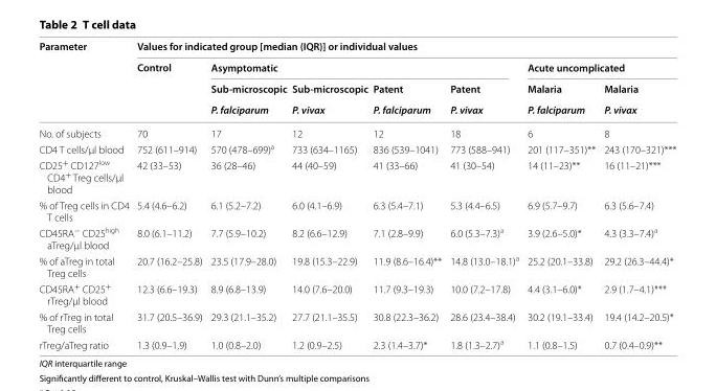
<table><thead><tr><td rowspan="4">Parameter</td><td colspan="7">Values for indicated group [median (IQR)] or individual values</td></tr><tr><td rowspan="3">Control</td><td colspan="4">Asymptomatic</td><td colspan="2">Acute uncomplicated</td></tr><tr><td rowspan="2">Sub‑microscopic P. falciparum</td><td rowspan="2">Sub‑microscopic P. vivax</td><td rowspan="2">Patent P. falciparum</td><td rowspan="2">Patent P. vivax</td><td rowspan="2">Malaria P. falciparum</td><td rowspan="2">Malaria P. vivax</td></tr><tr></tr></thead><tbody><tr><td>No. of subjects</td><td>70</td><td>17</td><td>12</td><td>12</td><td>18</td><td>6</td><td>8</td></tr><tr><td>CD4 T cells/µl blood</td><td>752 (611–914)</td><td>570 (478–699)<sup>a</sup></td><td>733 (634–1165)</td><td>836 (539–1041)</td><td>773 (588–941)</td><td>201 (117–351)**</td><td>243 (170–321)***</td></tr><tr><td>CD25<sup>+</sup> CD127<sup>low</sup> CD4<sup>+</sup> Treg cells/µl blood</td><td>42 (33–53)</td><td>36 (28–46)</td><td>44 (40–59)</td><td>41 (33–66)</td><td>41 (30–54)</td><td>14 (11–23)**</td><td>16 (11–21)***</td></tr><tr><td>% of Treg cells in CD4 T cells</td><td>5.4 (4.6–6.2)</td><td>6.1 (5.2–7.2)</td><td>6.0 (4.1–6.9)</td><td>6.3 (5.4–7.1)</td><td>5.3 (4.4–6.5)</td><td>6.9 (5.7–9.7)</td><td>6.3 (5.6–7.4)</td></tr><tr><td>CD45RA<sup>−</sup> CD25<sup>high</sup> aTreg/µl blood</td><td>8.0 (6.1–11.2)</td><td>7.7 (5.9–10.2)</td><td>8.2 (6.6–12.9)</td><td>7.1 (2.8–9.9)</td><td>6.0 (5.3–7.3)<sup>a</sup></td><td>3.9 (2.6–5.0)*</td><td>4.3 (3.3–7.4)<sup>a</sup></td></tr><tr><td>% of aTreg in total Treg cells</td><td>20.7 (16.2–25.8)</td><td>23.5 (17.9–28.0)</td><td>19.8 (15.3–22.9)</td><td>11.9 (8.6–16.4)**</td><td>14.8 (13.0–18.1)<sup>a</sup></td><td>25.2 (20.1–33.8)</td><td>29.2 (26.3–44.4)*</td></tr><tr><td>CD45RA<sup>+</sup> CD25<sup>+</sup> rTreg/µl blood</td><td>12.3 (6.6–19.3)</td><td>8.9 (6.8–13.9)</td><td>14.0 (7.6–20.0)</td><td>11.7 (9.3–19.3)</td><td>10.0 (7.2–17.8)</td><td>4.4 (3.1–6.0)*</td><td>2.9 (1.7–4.1)***</td></tr><tr><td>% of rTreg in total Treg cells</td><td>31.7 (20.5–36.9)</td><td>29.3 (21.1–35.2)</td><td>27.7 (21.1–35.5)</td><td>30.8 (22.3–36.2)</td><td>28.6 (23.4–38.4)</td><td>30.2 (19.1–33.4)</td><td>19.4 (14.2–20.5)*</td></tr><tr><td>rTreg/aTreg ratio</td><td>1.3 (0.9–1.9)</td><td>1.0 (0.8–2.0)</td><td>1.2 (0.9–2.5)</td><td>2.3 (1.4–3.7)*</td><td>1.8 (1.3–2.7)<sup>a</sup></td><td>1.1 (0.8–1.5)</td><td>0.7 (0.4–0.9)**</td></tr></tbody></table>